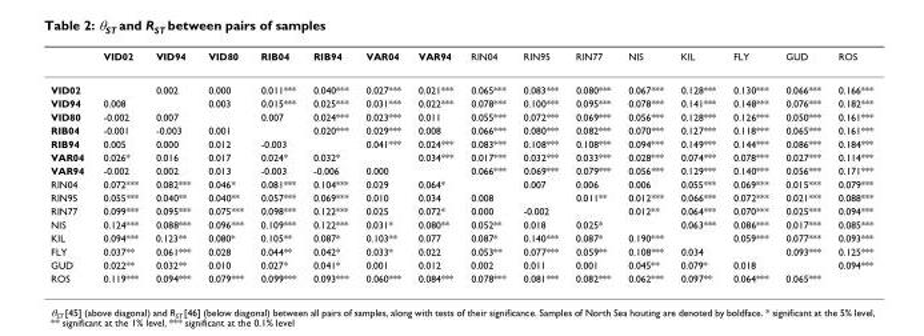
<table><thead><tr><td></td><td>VID02</td><td>VID94</td><td>VID80</td><td>RIB04</td><td>RIB94</td><td>VAR04</td><td>VAR94</td><td>RIN04</td><td>RIN95</td><td>RIN77</td><td>NIS</td><td>KIL</td><td>FLY</td><td>GUD</td><td>ROS</td></tr></thead><tbody><tr><td>VID02</td><td></td><td>0.002</td><td>0.000</td><td>0.011***</td><td>0.040***</td><td>0.027***</td><td>0.021***</td><td>0.065***</td><td>0.083***</td><td>0.080***</td><td>0.067***</td><td>0.128***</td><td>0.130***</td><td>0.066***</td><td>0.166***</td></tr><tr><td>VID94</td><td>0.008</td><td></td><td>0.003</td><td>0.015***</td><td>0.025***</td><td>0.031***</td><td>0.022***</td><td>0.078***</td><td>0.100***</td><td>0.095***</td><td>0.078***</td><td>0.141***</td><td>0.148***</td><td>0.076***</td><td>0.182***</td></tr><tr><td>VID80</td><td>-0.002</td><td>0.007</td><td></td><td>0.007</td><td>0.024***</td><td>0.023***</td><td>0.011</td><td>0.055***</td><td>0.072***</td><td>0.069***</td><td>0.056***</td><td>0.128***</td><td>0.126***</td><td>0.050***</td><td>0.161***</td></tr><tr><td>RIB04</td><td>-0.001</td><td>-0.003</td><td>0.001</td><td></td><td>0.020***</td><td>0.029***</td><td>0.008</td><td>0.066***</td><td>0.080***</td><td>0.082***</td><td>0.070***</td><td>0.127***</td><td>0.118***</td><td>0.065***</td><td>0.161***</td></tr><tr><td>RIB94</td><td>0.005</td><td>0.000</td><td>0.012</td><td>-0.003</td><td></td><td>0.041***</td><td>0.024***</td><td>0.083***</td><td>0.108***</td><td>0.108***</td><td>0.094***</td><td>0.149***</td><td>0.144***</td><td>0.086***</td><td>0.184***</td></tr><tr><td>VAR04</td><td>0.026*</td><td>0.016</td><td>0.017</td><td>0.024*</td><td>0.032*</td><td></td><td>0.034***</td><td>0.017***</td><td>0.032***</td><td>0.033***</td><td>0.028***</td><td>0.074***</td><td>0.078***</td><td>0.027***</td><td>0.114***</td></tr><tr><td>VAR94</td><td>-0.002</td><td>0.002</td><td>0.013</td><td>-0.003</td><td>-0.006</td><td>0.000</td><td></td><td>0.066***</td><td>0.069***</td><td>0.079***</td><td>0.056***</td><td>0.129***</td><td>0.140***</td><td>0.056***</td><td>0.171***</td></tr><tr><td>RIN04</td><td>0.072***</td><td>0.082***</td><td>0.046*</td><td>0.081***</td><td>0.104***</td><td>0.029</td><td>0.064*</td><td></td><td>0.007</td><td>0.006</td><td>0.006</td><td>0.055***</td><td>0.069***</td><td>0.015***</td><td>0.079***</td></tr><tr><td>RIN95</td><td>0.055***</td><td>0.040**</td><td>0.040**</td><td>0.057***</td><td>0.069***</td><td>0.010</td><td>0.034</td><td>0.008</td><td></td><td>0.011**</td><td>0.012***</td><td>0.066***</td><td>0.072***</td><td>0.021***</td><td>0.088***</td></tr><tr><td>RIN77</td><td>0.099***</td><td>0.095***</td><td>0.075***</td><td>0.098***</td><td>0.122***</td><td>0.025</td><td>0.072*</td><td>0.000</td><td>-0.002</td><td></td><td>0.012**</td><td>0.064***</td><td>0.070***</td><td>0.025***</td><td>0.094***</td></tr><tr><td>NIS</td><td>0.124***</td><td>0.088***</td><td>0.096***</td><td>0.109***</td><td>0.122***</td><td>0.031*</td><td>0.080**</td><td>0.052**</td><td>0.018</td><td>0.025*</td><td></td><td>0.063***</td><td>0.086***</td><td>0.017***</td><td>0.085***</td></tr><tr><td>KIL</td><td>0.094***</td><td>0.123**</td><td>0.080*</td><td>0.105**</td><td>0.087*</td><td>0.103**</td><td>0.077</td><td>0.087*</td><td>0.140***</td><td>0.087*</td><td>0.190***</td><td></td><td>0.059***</td><td>0.077***</td><td>0.093***</td></tr><tr><td>FLY</td><td>0.037**</td><td>0.061***</td><td>0.028</td><td>0.044**</td><td>0.042*</td><td>0.033*</td><td>0.022</td><td>0.053**</td><td>0.077***</td><td>0.059**</td><td>0.108***</td><td>0.034</td><td></td><td>0.093***</td><td>0.125***</td></tr><tr><td>GUD</td><td>0.022**</td><td>0.032**</td><td>0.010</td><td>0.027*</td><td>0.041*</td><td>0.001</td><td>0.012</td><td>0.002</td><td>0.011</td><td>0.001</td><td>0.045**</td><td>0.079*</td><td>0.018</td><td></td><td>0.094***</td></tr><tr><td>ROS</td><td>0.119***</td><td>0.094***</td><td>0.079***</td><td>0.099***</td><td>0.093***</td><td>0.060***</td><td>0.084***</td><td>0.078***</td><td>0.081***</td><td>0.082***</td><td>0.062***</td><td>0.097**</td><td>0.064***</td><td>0.065***</td><td></td></tr></tbody></table>